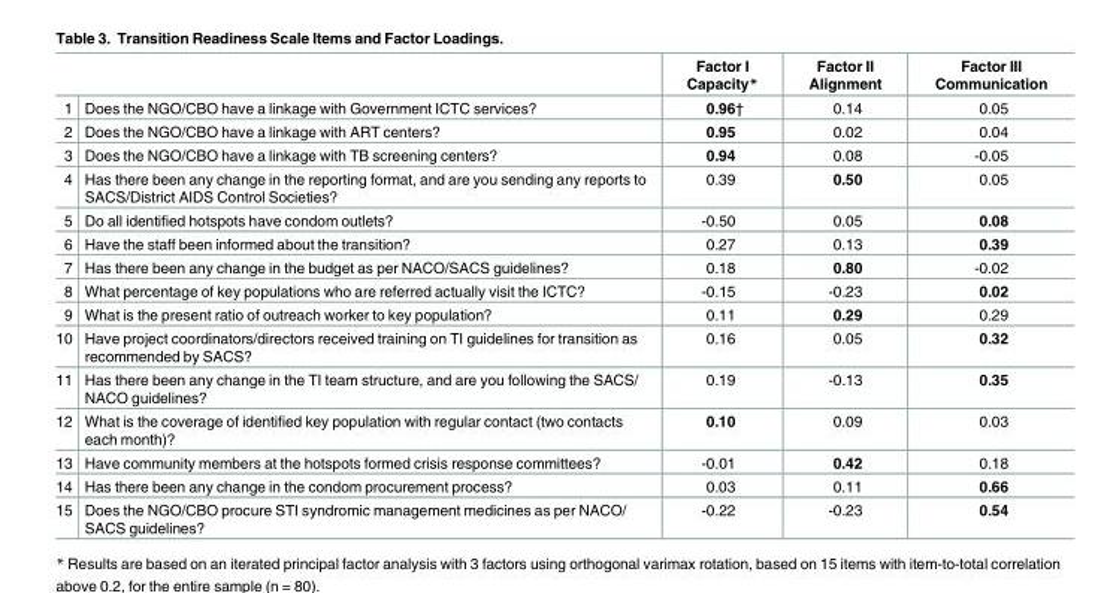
<table><thead><tr><td></td><td></td><td>Factor I Capacity*</td><td>Factor II Alignment</td><td>Factor III Communication</td></tr></thead><tbody><tr><td>1</td><td>Does the NGO/CBO have a linkage with Government ICTC services?</td><td>0.96†</td><td>0.14</td><td>0.05</td></tr><tr><td>2</td><td>Does the NGO/CBO have a linkage with ART centers?</td><td>0.95</td><td>0.02</td><td>0.04</td></tr><tr><td>3</td><td>Does the NGO/CBO have a linkage with TB screening centers?</td><td>0.94</td><td>0.08</td><td>-0.05</td></tr><tr><td>4</td><td>Has there been any change in the reporting format, and are you sending any reports to SACS/District AIDS Control Societies?</td><td>0.39</td><td>0.50</td><td>0.05</td></tr><tr><td>5</td><td>Do all identified hotspots have condom outlets?</td><td>-0.50</td><td>0.05</td><td>0.08</td></tr><tr><td>6</td><td>Have the staff been informed about the transition?</td><td>0.27</td><td>0.13</td><td>0.39</td></tr><tr><td>7</td><td>Has there been any change in the budget as per NACO/SACS guidelines?</td><td>0.18</td><td>0.80</td><td>-0.02</td></tr><tr><td>8</td><td>What percentage of key populations who are referred actually visit the ICTC?</td><td>-0.15</td><td>-0.23</td><td>0.02</td></tr><tr><td>9</td><td>What is the present ratio of outreach worker to key population?</td><td>0.11</td><td>0.29</td><td>0.29</td></tr><tr><td>10</td><td>Have project coordinators/directors received training on TI guidelines for transition as recommended by SACS?</td><td>0.16</td><td>0.05</td><td>0.32</td></tr><tr><td>11</td><td>Has there been any change in the TI team structure, and are you following the SACS/ NACO guidelines?</td><td>0.19</td><td>-0.13</td><td>0.35</td></tr><tr><td>12</td><td>What is the coverage of identified key population with regular contact (two contacts each month)?</td><td>0.10</td><td>0.09</td><td>0.03</td></tr><tr><td>13</td><td>Have community members at the hotspots formed crisis response committees?</td><td>-0.01</td><td>0.42</td><td>0.18</td></tr><tr><td>14</td><td>Has there been any change in the condom procurement process?</td><td>0.03</td><td>0.11</td><td>0.66</td></tr><tr><td>15</td><td>Does the NGO/CBO procure STI syndromic management medicines as per NACO/ SACS guidelines?</td><td>-0.22</td><td>-0.23</td><td>0.54</td></tr></tbody></table>